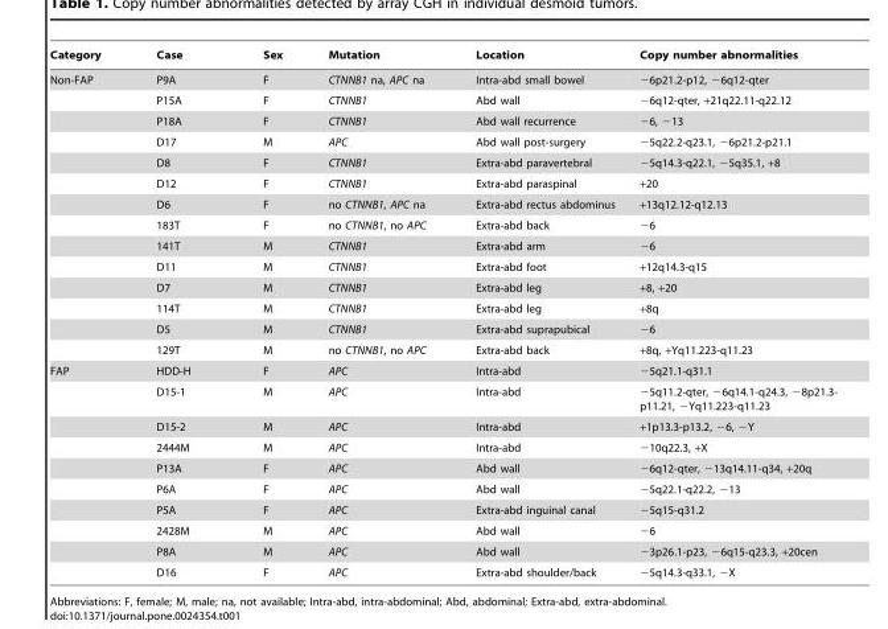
<table><thead><tr><td>Category</td><td>Case</td><td>Sex</td><td>Mutation</td><td>Location</td><td>Copy number abnormalities</td></tr></thead><tbody><tr><td rowspan="14">Non-FAP</td><td>P9A</td><td>F</td><td>CTNNB1 na, APC na</td><td>Intra-abd small bowel</td><td>−6p21.2-p12, −6q12-qter</td></tr><tr><td>P15A</td><td>F</td><td>CTNNB1</td><td>Abd wall</td><td>−6q12-qter, +21q22.11-q22.12</td></tr><tr><td>P18A</td><td>F</td><td>CTNNB1</td><td>Abd wall recurrence</td><td>−6, −13</td></tr><tr><td>D17</td><td>M</td><td>APC</td><td>Abd wall post-surgery</td><td>−5q22.2-q23.1, −6p21.2-p21.1</td></tr><tr><td>D8</td><td>F</td><td>CTNNB1</td><td>Extra-abd paravertebral</td><td>−5q14.3-q22.1, −5q35.1, +8</td></tr><tr><td>D12</td><td>F</td><td>CTNNB1</td><td>Extra-abd paraspinal</td><td>+20</td></tr><tr><td>D6</td><td>F</td><td>no CTNNB1, APC na</td><td>Extra-abd rectus abdominus</td><td>+13q12.12-q12.13</td></tr><tr><td>183T</td><td>F</td><td>no CTNNB1, no APC</td><td>Extra-abd back</td><td>−6</td></tr><tr><td>141T</td><td>M</td><td>CTNNB1</td><td>Extra-abd arm</td><td>−6</td></tr><tr><td>D11</td><td>M</td><td>CTNNB1</td><td>Extra-abd foot</td><td>+12q14.3-q15</td></tr><tr><td>D7</td><td>M</td><td>CTNNB1</td><td>Extra-abd leg</td><td>+8, +20</td></tr><tr><td>114T</td><td>M</td><td>CTNNB1</td><td>Extra-abd leg</td><td>+8q</td></tr><tr><td>D5</td><td>M</td><td>CTNNB1</td><td>Extra-abd suprapubical</td><td>−6</td></tr><tr><td>129T</td><td>M</td><td>no CTNNB1, no APC</td><td>Extra-abd back</td><td>+8q, +Yq11.223-q11.23</td></tr><tr><td rowspan="10">FAP</td><td>HDD-H</td><td>F</td><td>APC</td><td>Intra-abd</td><td>−5q21.1-q31.1</td></tr><tr><td>D15-1</td><td>M</td><td>APC</td><td>Intra-abd</td><td>−5q11.2-qter, −6q14.1-q24.3, −8p21.3- p11.21, −Yq11.223-q11.23</td></tr><tr><td>D15-2</td><td>M</td><td>APC</td><td>Intra-abd</td><td>+1p13.3-p13.2, −6, −Y</td></tr><tr><td>2444M</td><td>M</td><td>APC</td><td>Intra-abd</td><td>−10q22.3, +X</td></tr><tr><td>P13A</td><td>F</td><td>APC</td><td>Abd wall</td><td>−6q12-qter, −13q14.11-q34, +20q</td></tr><tr><td>P6A</td><td>F</td><td>APC</td><td>Abd wall</td><td>−5q22.1-q22.2, −13</td></tr><tr><td>P5A</td><td>F</td><td>APC</td><td>Extra-abd inguinal canal</td><td>−5q15-q31.2</td></tr><tr><td>2428M</td><td>M</td><td>APC</td><td>Abd wall</td><td>−6</td></tr><tr><td>P8A</td><td>M</td><td>APC</td><td>Abd wall</td><td>−3p26.1-p23, −6q15-q23.3, +20cen</td></tr><tr><td>D16</td><td>F</td><td>APC</td><td>Extra-abd shoulder/back</td><td>−5q14.3-q33.1, −X</td></tr></tbody></table>